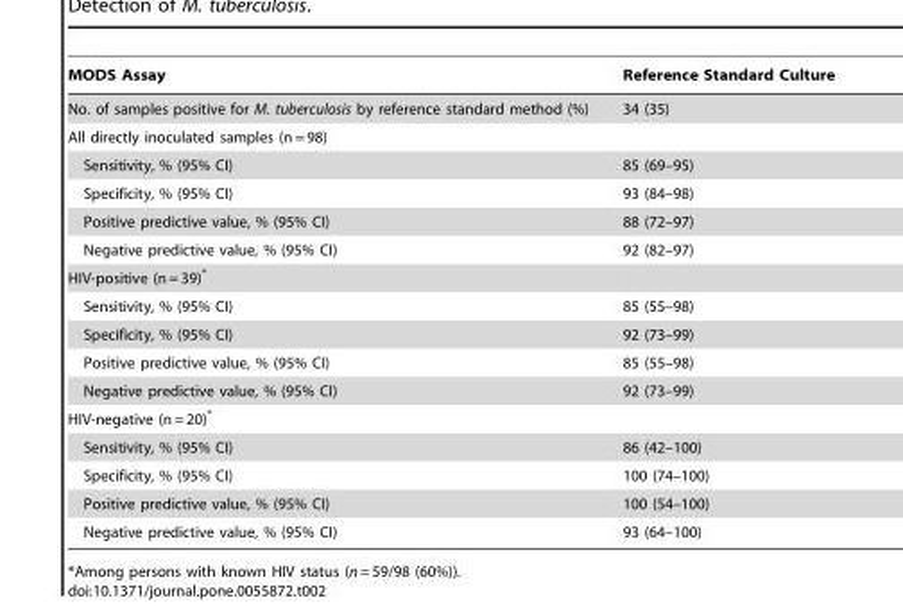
<table><thead><tr><td>MODS Assay</td><td>Reference Standard Culture</td></tr></thead><tbody><tr><td>No. of samples positive for M. tuberculosis by reference standard method (%)</td><td>34 (35)</td></tr><tr><td colspan="2">All directly inoculated samples (n = 98)</td></tr><tr><td>Sensitivity, % (95% CI)</td><td>85 (69–95)</td></tr><tr><td>Specificity, % (95% CI)</td><td>93 (84–98)</td></tr><tr><td>Positive predictive value, % (95% CI)</td><td>88 (72–97)</td></tr><tr><td>Negative predictive value, % (95% CI)</td><td>92 (82–97)</td></tr><tr><td colspan="2">HIV-positive (n = 39)*</td></tr><tr><td>Sensitivity, % (95% CI)</td><td>85 (55–98)</td></tr><tr><td>Specificity, % (95% CI)</td><td>92 (73–99)</td></tr><tr><td>Positive predictive value, % (95% CI)</td><td>85 (55–98)</td></tr><tr><td>Negative predictive value, % (95% CI)</td><td>92 (73–99)</td></tr><tr><td colspan="2">HIV-negative (n = 20)*</td></tr><tr><td>Sensitivity, % (95% CI)</td><td>86 (42–100)</td></tr><tr><td>Specificity, % (95% CI)</td><td>100 (74–100)</td></tr><tr><td>Positive predictive value, % (95% CI)</td><td>100 (54–100)</td></tr><tr><td>Negative predictive value, % (95% CI)</td><td>93 (64–100)</td></tr></tbody></table>